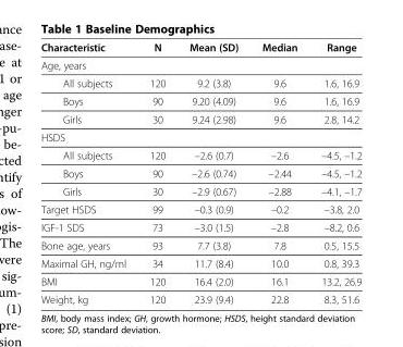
<table><thead><tr><td>Characteristic</td><td>N</td><td>Mean (SD)</td><td>Median</td><td>Range</td></tr></thead><tbody><tr><td colspan="5">Age, years</td></tr><tr><td>All subjects</td><td>120</td><td>9.2 (3.8)</td><td>9.6</td><td>1.6, 16.9</td></tr><tr><td>Boys</td><td>90</td><td>9.20 (4.09)</td><td>9.6</td><td>1.6, 16.9</td></tr><tr><td>Girls</td><td>30</td><td>9.24 (2.98)</td><td>9.6</td><td>2.8, 14.2</td></tr><tr><td colspan="5">HSDS</td></tr><tr><td>All subjects</td><td>120</td><td>–2.6 (0.7)</td><td>–2.6</td><td>–4.5, –1.2</td></tr><tr><td>Boys</td><td>90</td><td>–2.6 (0.74)</td><td>–2.44</td><td>–4.5, –1.2</td></tr><tr><td>Girls</td><td>30</td><td>–2.9 (0.67)</td><td>–2.88</td><td>–4.1, –1.7</td></tr><tr><td>Target HSDS</td><td>99</td><td>–0.3 (0.9)</td><td>–0.2</td><td>–3.8, 2.0</td></tr><tr><td>IGF-1 SDS</td><td>73</td><td>–3.0 (1.5)</td><td>–2.8</td><td>–8.2, 0.6</td></tr><tr><td>Bone age, years</td><td>93</td><td>7.7 (3.8)</td><td>7.8</td><td>0.5, 15.5</td></tr><tr><td>Maximal GH, ng/ml</td><td>34</td><td>11.7 (8.4)</td><td>10.0</td><td>0.8, 39.3</td></tr><tr><td>BMI</td><td>120</td><td>16.4 (2.0)</td><td>16.1</td><td>13.2, 26.9</td></tr><tr><td>Weight, kg</td><td>120</td><td>23.9 (9.4)</td><td>22.8</td><td>8.3, 51.6</td></tr></tbody></table>